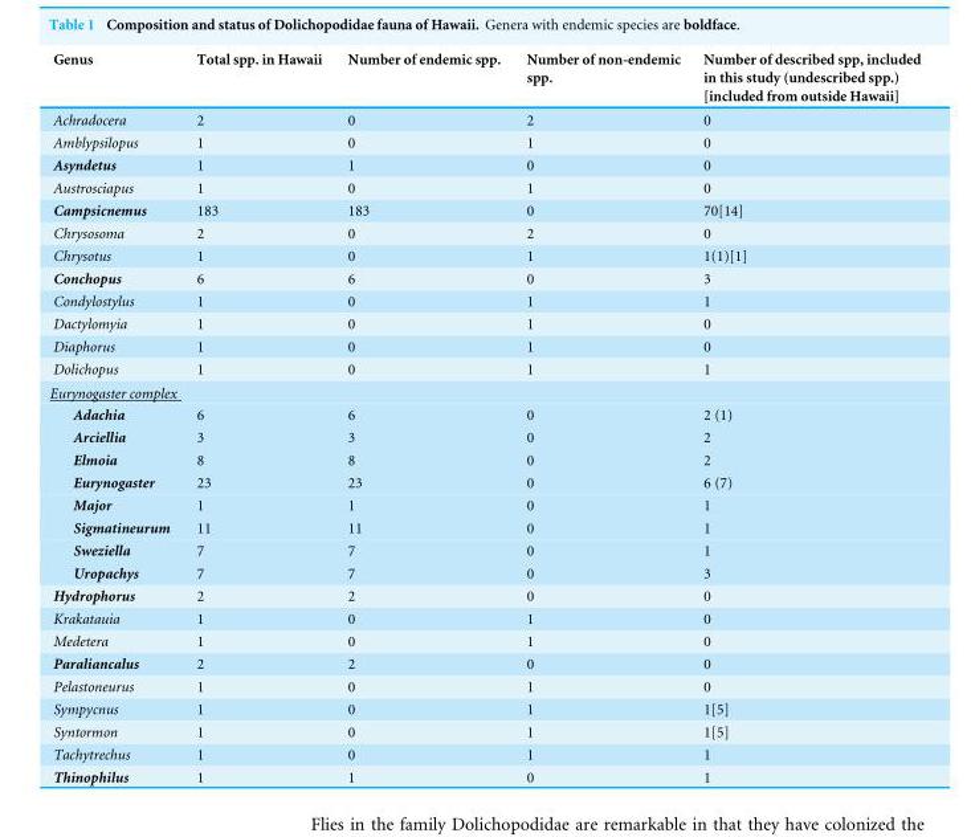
<table><thead><tr><td>Genus</td><td>Total spp. in Hawaii</td><td>Number of endemic spp.</td><td>Number of non-endemic spp.</td><td>Number of described spp, included in this study (undescribed spp.) [included from outside Hawaii]</td></tr></thead><tbody><tr><td>Achradocera</td><td>2</td><td>0</td><td>2</td><td>0</td></tr><tr><td>Amblypsilopus</td><td>1</td><td>0</td><td>1</td><td>0</td></tr><tr><td>Asyndetus</td><td>1</td><td>1</td><td>0</td><td>0</td></tr><tr><td>Austrosciapus</td><td>1</td><td>0</td><td>1</td><td>0</td></tr><tr><td>Campsicnemus</td><td>183</td><td>183</td><td>0</td><td>70[14]</td></tr><tr><td>Chrysosoma</td><td>2</td><td>0</td><td>2</td><td>0</td></tr><tr><td>Chrysotus</td><td>1</td><td>0</td><td>1</td><td>1(1)[1]</td></tr><tr><td>Conchopus</td><td>6</td><td>6</td><td>0</td><td>3</td></tr><tr><td>Condylostylus</td><td>1</td><td>0</td><td>1</td><td>1</td></tr><tr><td>Dactylomyia</td><td>1</td><td>0</td><td>1</td><td>0</td></tr><tr><td>Diaphorus</td><td>1</td><td>0</td><td>1</td><td>0</td></tr><tr><td>Dolichopus</td><td>1</td><td>0</td><td>1</td><td>1</td></tr><tr><td colspan="5">Eurynogaster complex</td></tr><tr><td>Adachia</td><td>6</td><td>6</td><td>0</td><td>2 (1)</td></tr><tr><td>Arciellia</td><td>3</td><td>3</td><td>0</td><td>2</td></tr><tr><td>Elmoia</td><td>8</td><td>8</td><td>0</td><td>2</td></tr><tr><td>Eurynogaster</td><td>23</td><td>23</td><td>0</td><td>6 (7)</td></tr><tr><td>Major</td><td>1</td><td>1</td><td>0</td><td>1</td></tr><tr><td>Sigmatineurum</td><td>11</td><td>11</td><td>0</td><td>1</td></tr><tr><td>Sweziella</td><td>7</td><td>7</td><td>0</td><td>1</td></tr><tr><td>Uropachys</td><td>7</td><td>7</td><td>0</td><td>3</td></tr><tr><td>Hydrophorus</td><td>2</td><td>2</td><td>0</td><td>0</td></tr><tr><td>Krakatauia</td><td>1</td><td>0</td><td>1</td><td>0</td></tr><tr><td>Medetera</td><td>1</td><td>0</td><td>1</td><td>0</td></tr><tr><td>Paraliancalus</td><td>2</td><td>2</td><td>0</td><td>0</td></tr><tr><td>Pelastoneurus</td><td>1</td><td>0</td><td>1</td><td>0</td></tr><tr><td>Sympycnus</td><td>1</td><td>0</td><td>1</td><td>1[5]</td></tr><tr><td>Syntormon</td><td>1</td><td>0</td><td>1</td><td>1[5]</td></tr><tr><td>Tachytrechus</td><td>1</td><td>0</td><td>1</td><td>1</td></tr><tr><td>Thinophilus</td><td>1</td><td>1</td><td>0</td><td>1</td></tr></tbody></table>